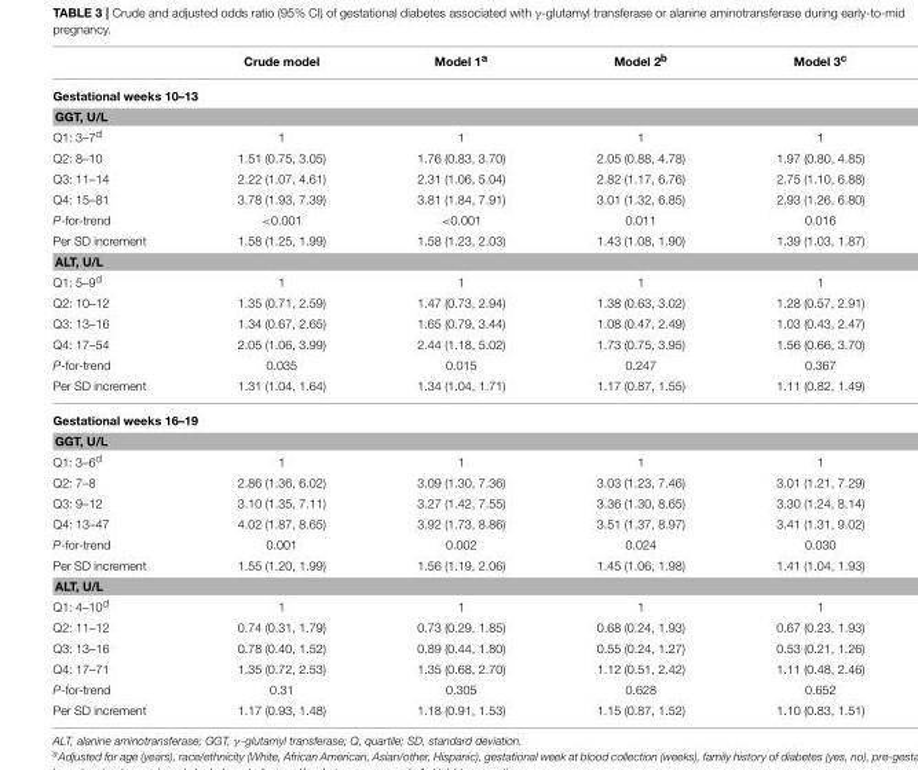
<table><thead><tr><td></td><td>Crude model</td><td>Model 1<sup>a</sup></td><td>Model 2<sup>b</sup></td><td>Model 3<sup>c</sup></td></tr></thead><tbody><tr><td colspan="5">Gestational weeks 10–13</td></tr><tr><td colspan="5">GGT, U/L</td></tr><tr><td>Q1: 3–7<sup>d</sup></td><td>1</td><td>1</td><td>1</td><td>1</td></tr><tr><td>Q2: 8–10</td><td>1.51 (0.75, 3.05)</td><td>1.76 (0.83, 3.70)</td><td>2.05 (0.88, 4.78)</td><td>1.97 (0.80, 4.85)</td></tr><tr><td>Q3: 11–14</td><td>2.22 (1.07, 4.61)</td><td>2.31 (1.06, 5.04)</td><td>2.82 (1.17, 6.76)</td><td>2.75 (1.10, 6.88)</td></tr><tr><td>Q4: 15–81</td><td>3.78 (1.93, 7.39)</td><td>3.81 (1.84, 7.91)</td><td>3.01 (1.32, 6.85)</td><td>2.93 (1.26, 6.80)</td></tr><tr><td>P-for-trend</td><td>&lt;0.001</td><td>&lt;0.001</td><td>0.011</td><td>0.016</td></tr><tr><td>Per SD increment</td><td>1.58 (1.25, 1.99)</td><td>1.58 (1.23, 2.03)</td><td>1.43 (1.08, 1.90)</td><td>1.39 (1.03, 1.87)</td></tr><tr><td colspan="5">ALT, U/L</td></tr><tr><td>Q1: 5–9<sup>d</sup></td><td>1</td><td>1</td><td>1</td><td>1</td></tr><tr><td>Q2: 10–12</td><td>1.35 (0.71, 2.59)</td><td>1.47 (0.73, 2.94)</td><td>1.38 (0.63, 3.02)</td><td>1.28 (0.57, 2.91)</td></tr><tr><td>Q3: 13–16</td><td>1.34 (0.67, 2.65)</td><td>1.65 (0.79, 3.44)</td><td>1.08 (0.47, 2.49)</td><td>1.03 (0.43, 2.47)</td></tr><tr><td>Q4: 17–54</td><td>2.05 (1.06, 3.99)</td><td>2.44 (1.18, 5.02)</td><td>1.73 (0.75, 3.95)</td><td>1.56 (0.66, 3.70)</td></tr><tr><td>P-for-trend</td><td>0.035</td><td>0.015</td><td>0.247</td><td>0.367</td></tr><tr><td>Per SD increment</td><td>1.31 (1.04, 1.64)</td><td>1.34 (1.04, 1.71)</td><td>1.17 (0.87, 1.55)</td><td>1.11 (0.82, 1.49)</td></tr><tr><td colspan="5">Gestational weeks 16–19</td></tr><tr><td colspan="5">GGT, U/L</td></tr><tr><td>Q1: 3–6<sup>d</sup></td><td>1</td><td>1</td><td>1</td><td>1</td></tr><tr><td>Q2: 7–8</td><td>2.86 (1.36, 6.02)</td><td>3.09 (1.30, 7.36)</td><td>3.03 (1.23, 7.46)</td><td>3.01 (1.21, 7.29)</td></tr><tr><td>Q3: 9–12</td><td>3.10 (1.35, 7.11)</td><td>3.27 (1.42, 7.55)</td><td>3.36 (1.30, 8.65)</td><td>3.30 (1.24, 8.14)</td></tr><tr><td>Q4: 13–47</td><td>4.02 (1.87, 8.65)</td><td>3.92 (1.73, 8.86)</td><td>3.51 (1.37, 8.97)</td><td>3.41 (1.31, 9.02)</td></tr><tr><td>P-for-trend</td><td>0.001</td><td>0.002</td><td>0.024</td><td>0.030</td></tr><tr><td>Per SD increment</td><td>1.55 (1.20, 1.99)</td><td>1.56 (1.19, 2.06)</td><td>1.45 (1.06, 1.98)</td><td>1.41 (1.04, 1.93)</td></tr><tr><td colspan="5">ALT, U/L</td></tr><tr><td>Q1: 4–10<sup>d</sup></td><td>1</td><td>1</td><td>1</td><td>1</td></tr><tr><td>Q2: 11–12</td><td>0.74 (0.31, 1.79)</td><td>0.73 (0.29, 1.85)</td><td>0.68 (0.24, 1.93)</td><td>0.67 (0.23, 1.93)</td></tr><tr><td>Q3: 13–16</td><td>0.78 (0.40, 1.52)</td><td>0.89 (0.44, 1.80)</td><td>0.55 (0.24, 1.27)</td><td>0.53 (0.21, 1.26)</td></tr><tr><td>Q4: 17–71</td><td>1.35 (0.72, 2.53)</td><td>1.35 (0.68, 2.70)</td><td>1.12 (0.51, 2.42)</td><td>1.11 (0.48, 2.46)</td></tr><tr><td>P-for-trend</td><td>0.31</td><td>0.305</td><td>0.628</td><td>0.652</td></tr><tr><td>Per SD increment</td><td>1.17 (0.93, 1.48)</td><td>1.18 (0.91, 1.53)</td><td>1.15 (0.87, 1.52)</td><td>1.10 (0.83, 1.51)</td></tr></tbody></table>